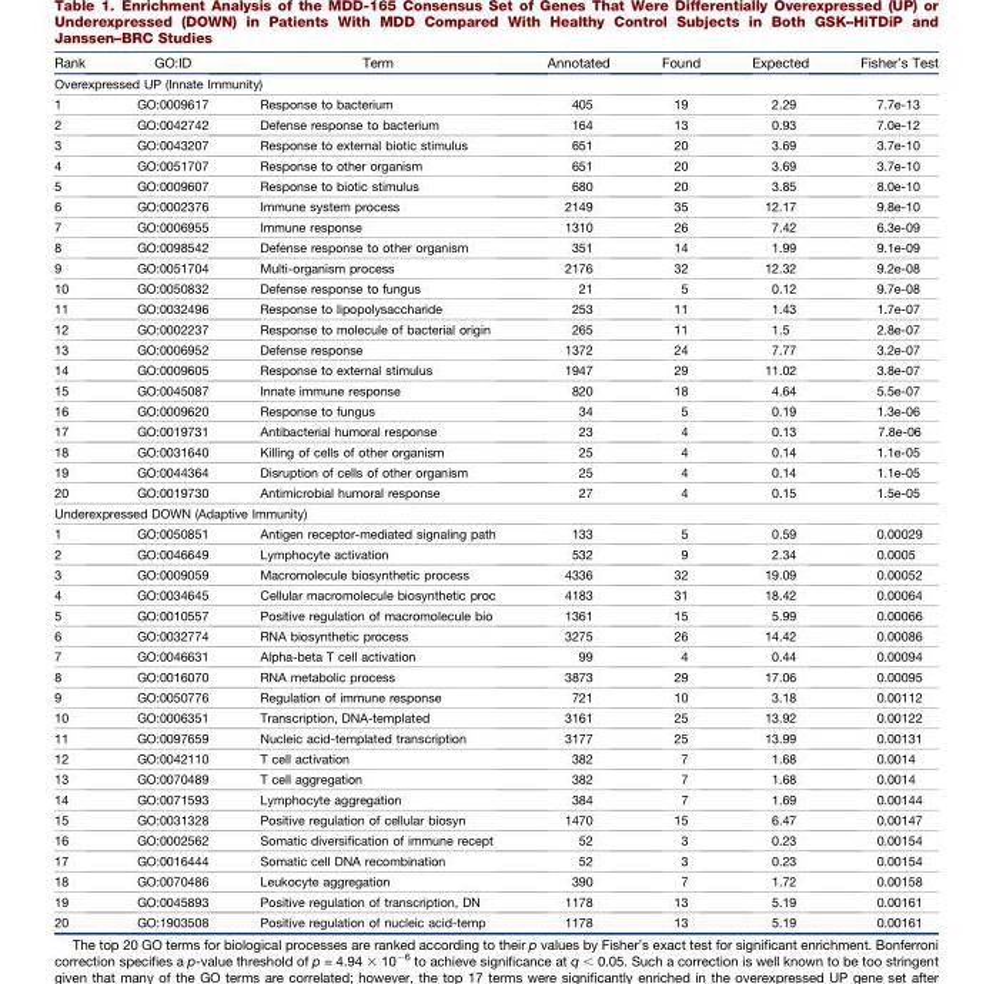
<table><thead><tr><td>Rank</td><td>GO:ID</td><td>Term</td><td>Annotated</td><td>Found</td><td>Expected</td><td>Fisher’s Test</td></tr></thead><tbody><tr><td colspan="7">Overexpressed UP (Innate Immunity)</td></tr><tr><td>1</td><td>GO:0009617</td><td>Response to bacterium</td><td>405</td><td>19</td><td>2.29</td><td>7.7e-13</td></tr><tr><td>2</td><td>GO:0042742</td><td>Defense response to bacterium</td><td>164</td><td>13</td><td>0.93</td><td>7.0e-12</td></tr><tr><td>3</td><td>GO:0043207</td><td>Response to external biotic stimulus</td><td>651</td><td>20</td><td>3.69</td><td>3.7e-10</td></tr><tr><td>4</td><td>GO:0051707</td><td>Response to other organism</td><td>651</td><td>20</td><td>3.69</td><td>3.7e-10</td></tr><tr><td>5</td><td>GO:0009607</td><td>Response to biotic stimulus</td><td>680</td><td>20</td><td>3.85</td><td>8.0e-10</td></tr><tr><td>6</td><td>GO:0002376</td><td>Immune system process</td><td>2149</td><td>35</td><td>12.17</td><td>9.8e-10</td></tr><tr><td>7</td><td>GO:0006955</td><td>Immune response</td><td>1310</td><td>26</td><td>7.42</td><td>6.3e-09</td></tr><tr><td>8</td><td>GO:0098542</td><td>Defense response to other organism</td><td>351</td><td>14</td><td>1.99</td><td>9.1e-09</td></tr><tr><td>9</td><td>GO:0051704</td><td>Multi-organism process</td><td>2176</td><td>32</td><td>12.32</td><td>9.2e-08</td></tr><tr><td>10</td><td>GO:0050832</td><td>Defense response to fungus</td><td>21</td><td>5</td><td>0.12</td><td>9.7e-08</td></tr><tr><td>11</td><td>GO:0032496</td><td>Response to lipopolysaccharide</td><td>253</td><td>11</td><td>1.43</td><td>1.7e-07</td></tr><tr><td>12</td><td>GO:0002237</td><td>Response to molecule of bacterial origin</td><td>265</td><td>11</td><td>1.5</td><td>2.8e-07</td></tr><tr><td>13</td><td>GO:0006952</td><td>Defense response</td><td>1372</td><td>24</td><td>7.77</td><td>3.2e-07</td></tr><tr><td>14</td><td>GO:0009605</td><td>Response to external stimulus</td><td>1947</td><td>29</td><td>11.02</td><td>3.8e-07</td></tr><tr><td>15</td><td>GO:0045087</td><td>Innate immune response</td><td>820</td><td>18</td><td>4.64</td><td>5.5e-07</td></tr><tr><td>16</td><td>GO:0009620</td><td>Response to fungus</td><td>34</td><td>5</td><td>0.19</td><td>1.3e-06</td></tr><tr><td>17</td><td>GO:0019731</td><td>Antibacterial humoral response</td><td>23</td><td>4</td><td>0.13</td><td>7.8e-06</td></tr><tr><td>18</td><td>GO:0031640</td><td>Killing of cells of other organism</td><td>25</td><td>4</td><td>0.14</td><td>1.1e-05</td></tr><tr><td>19</td><td>GO:0044364</td><td>Disruption of cells of other organism</td><td>25</td><td>4</td><td>0.14</td><td>1.1e-05</td></tr><tr><td>20</td><td>GO:0019730</td><td>Antimicrobial humoral response</td><td>27</td><td>4</td><td>0.15</td><td>1.5e-05</td></tr><tr><td colspan="7">Underexpressed DOWN (Adaptive Immunity)</td></tr><tr><td>1</td><td>GO:0050851</td><td>Antigen receptor-mediated signaling path</td><td>133</td><td>5</td><td>0.59</td><td>0.00029</td></tr><tr><td>2</td><td>GO:0046649</td><td>Lymphocyte activation</td><td>532</td><td>9</td><td>2.34</td><td>0.0005</td></tr><tr><td>3</td><td>GO:0009059</td><td>Macromolecule biosynthetic process</td><td>4336</td><td>32</td><td>19.09</td><td>0.00052</td></tr><tr><td>4</td><td>GO:0034645</td><td>Cellular macromolecule biosynthetic proc</td><td>4183</td><td>31</td><td>18.42</td><td>0.00064</td></tr><tr><td>5</td><td>GO:0010557</td><td>Positive regulation of macromolecule bio</td><td>1361</td><td>15</td><td>5.99</td><td>0.00066</td></tr><tr><td>6</td><td>GO:0032774</td><td>RNA biosynthetic process</td><td>3275</td><td>26</td><td>14.42</td><td>0.00086</td></tr><tr><td>7</td><td>GO:0046631</td><td>Alpha-beta T cell activation</td><td>99</td><td>4</td><td>0.44</td><td>0.00094</td></tr><tr><td>8</td><td>GO:0016070</td><td>RNA metabolic process</td><td>3873</td><td>29</td><td>17.06</td><td>0.00095</td></tr><tr><td>9</td><td>GO:0050776</td><td>Regulation of immune response</td><td>721</td><td>10</td><td>3.18</td><td>0.00112</td></tr><tr><td>10</td><td>GO:0006351</td><td>Transcription, DNA-templated</td><td>3161</td><td>25</td><td>13.92</td><td>0.00122</td></tr><tr><td>11</td><td>GO:0097659</td><td>Nucleic acid-templated transcription</td><td>3177</td><td>25</td><td>13.99</td><td>0.00131</td></tr><tr><td>12</td><td>GO:0042110</td><td>T cell activation</td><td>382</td><td>7</td><td>1.68</td><td>0.0014</td></tr><tr><td>13</td><td>GO:0070489</td><td>T cell aggregation</td><td>382</td><td>7</td><td>1.68</td><td>0.0014</td></tr><tr><td>14</td><td>GO:0071593</td><td>Lymphocyte aggregation</td><td>384</td><td>7</td><td>1.69</td><td>0.00144</td></tr><tr><td>15</td><td>GO:0031328</td><td>Positive regulation of cellular biosyn</td><td>1470</td><td>15</td><td>6.47</td><td>0.00147</td></tr><tr><td>16</td><td>GO:0002562</td><td>Somatic diversification of immune recept</td><td>52</td><td>3</td><td>0.23</td><td>0.00154</td></tr><tr><td>17</td><td>GO:0016444</td><td>Somatic cell DNA recombination</td><td>52</td><td>3</td><td>0.23</td><td>0.00154</td></tr><tr><td>18</td><td>GO:0070486</td><td>Leukocyte aggregation</td><td>390</td><td>7</td><td>1.72</td><td>0.00158</td></tr><tr><td>19</td><td>GO:0045893</td><td>Positive regulation of transcription, DN</td><td>1178</td><td>13</td><td>5.19</td><td>0.00161</td></tr><tr><td>20</td><td>GO:1903508</td><td>Positive regulation of nucleic acid-temp</td><td>1178</td><td>13</td><td>5.19</td><td>0.00161</td></tr></tbody></table>